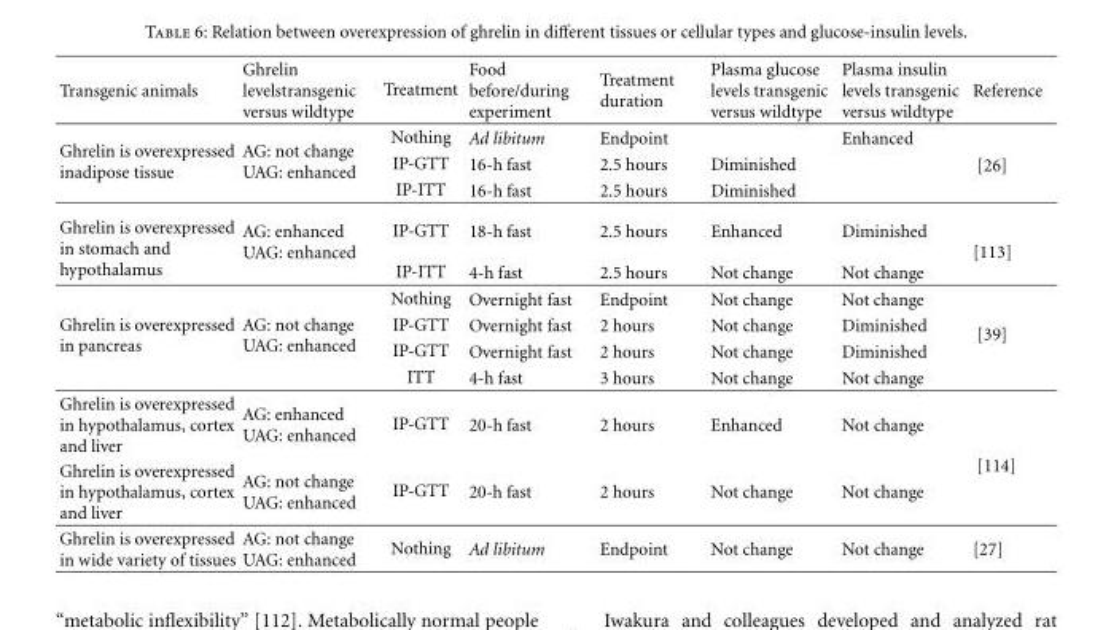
<table><thead><tr><td>Transgenic animals</td><td>Ghrelin levelstransgenic versus wildtype</td><td>Treatment</td><td>Food before/during experiment</td><td>Treatment duration</td><td>Plasma glucose levels transgenic versus wildtype</td><td>Plasma insulin levels transgenic versus wildtype</td><td>Reference</td></tr></thead><tbody><tr><td rowspan="3">Ghrelin is overexpressed inadipose tissue</td><td rowspan="3">AG: not change UAG: enhanced</td><td>Nothing</td><td>Ad libitum</td><td>Endpoint</td><td></td><td>Enhanced</td><td rowspan="3">[26]</td></tr><tr><td>IP-GTT</td><td>16-h fast</td><td>2.5 hours</td><td>Diminished</td><td></td></tr><tr><td>IP-ITT</td><td>16-h fast</td><td>2.5 hours</td><td>Diminished</td><td></td></tr><tr><td rowspan="2">Ghrelin is overexpressed in stomach and hypothalamus</td><td rowspan="2">AG: enhanced UAG: enhanced</td><td>IP-GTT</td><td>18-h fast</td><td>2.5 hours</td><td>Enhanced</td><td>Diminished</td><td rowspan="2">[113]</td></tr><tr><td>IP-ITT</td><td>4-h fast</td><td>2.5 hours</td><td>Not change</td><td>Not change</td></tr><tr><td rowspan="4">Ghrelin is overexpressed in pancreas</td><td rowspan="4">AG: not change UAG: enhanced</td><td>Nothing</td><td>Overnight fast</td><td>Endpoint</td><td>Not change</td><td>Not change</td><td rowspan="4">[39]</td></tr><tr><td>IP-GTT</td><td>Overnight fast</td><td>2 hours</td><td>Not change</td><td>Diminished</td></tr><tr><td>IP-GTT</td><td>Overnight fast</td><td>2 hours</td><td>Not change</td><td>Diminished</td></tr><tr><td>ITT</td><td>4-h fast</td><td>3 hours</td><td>Not change</td><td>Not change</td></tr><tr><td>Ghrelin is overexpressed in hypothalamus, cortex and liver</td><td>AG: enhanced UAG: enhanced</td><td>IP-GTT</td><td>20-h fast</td><td>2 hours</td><td>Enhanced</td><td>Not change</td><td rowspan="2">[114]</td></tr><tr><td>Ghrelin is overexpressed in hypothalamus, cortex and liver</td><td>AG: not change UAG: enhanced</td><td>IP-GTT</td><td>20-h fast</td><td>2 hours</td><td>Not change</td><td>Not change</td></tr><tr><td>Ghrelin is overexpressed in wide variety of tissues</td><td>AG: not change UAG: enhanced</td><td>Nothing</td><td>Ad libitum</td><td>Endpoint</td><td>Not change</td><td>Not change</td><td>[27]</td></tr></tbody></table>